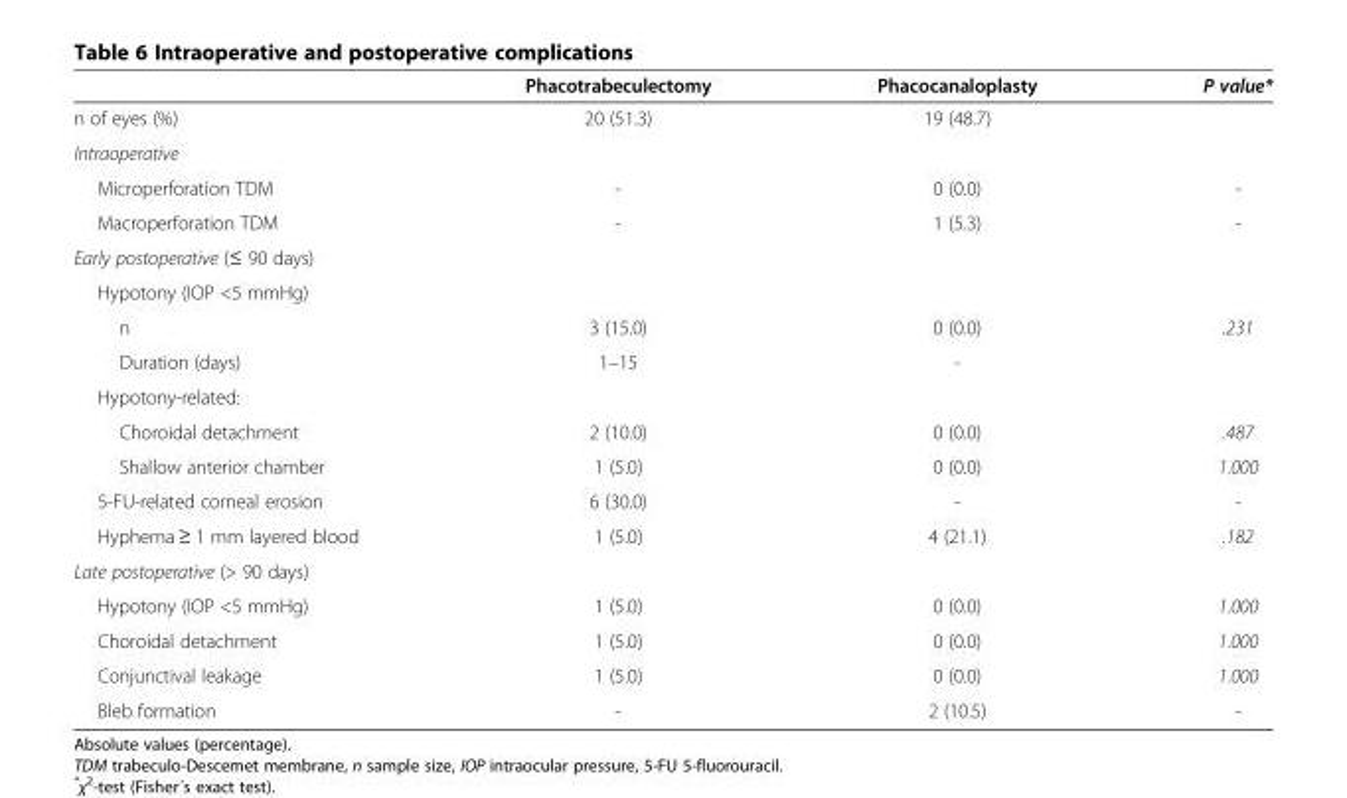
<table><thead><tr><td></td><td>Phacotrabeculectomy</td><td>Phacocanaloplasty</td><td>P value*</td></tr></thead><tbody><tr><td>n of eyes (%)</td><td>20 (51.3)</td><td>19 (48.7)</td><td></td></tr><tr><td colspan="4">Intraoperative</td></tr><tr><td>Microperforation TDM</td><td>-</td><td>0 (0.0)</td><td>-</td></tr><tr><td>Macroperforation TDM</td><td>-</td><td>1 (5.3)</td><td>-</td></tr><tr><td colspan="4">Early postoperative (≤ 90 days)</td></tr><tr><td colspan="4">Hypotony (IOP &lt;5 mmHg)</td></tr><tr><td>n</td><td>3 (15.0)</td><td>0 (0.0)</td><td>.231</td></tr><tr><td>Duration (days)</td><td>1–15</td><td>-</td><td></td></tr><tr><td colspan="4">Hypotony-related:</td></tr><tr><td>Choroidal detachment</td><td>2 (10.0)</td><td>0 (0.0)</td><td>.487</td></tr><tr><td>Shallow anterior chamber</td><td>1 (5.0)</td><td>0 (0.0)</td><td>1.000</td></tr><tr><td>5-FU-related corneal erosion</td><td>6 (30.0)</td><td>-</td><td>-</td></tr><tr><td>Hyphema ≥ 1 mm layered blood</td><td>1 (5.0)</td><td>4 (21.1)</td><td>.182</td></tr><tr><td colspan="4">Late postoperative (&gt; 90 days)</td></tr><tr><td>Hypotony (IOP &lt;5 mmHg)</td><td>1 (5.0)</td><td>0 (0.0)</td><td>1.000</td></tr><tr><td>Choroidal detachment</td><td>1 (5.0)</td><td>0 (0.0)</td><td>1.000</td></tr><tr><td>Conjunctival leakage</td><td>1 (5.0)</td><td>0 (0.0)</td><td>1.000</td></tr><tr><td>Bleb formation</td><td>-</td><td>2 (10.5)</td><td>-</td></tr></tbody></table>